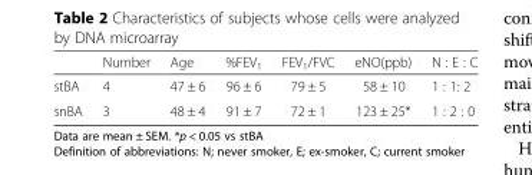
<table><thead><tr><td></td><td>Number</td><td>Age</td><td>%FEV<sub>1</sub></td><td>FEV<sub>1</sub>/FVC</td><td>eNO(ppb)</td><td>N : E : C</td></tr></thead><tbody><tr><td>stBA</td><td>4</td><td>47 ± 6</td><td>96 ± 6</td><td>79 ± 5</td><td>58 ± 10</td><td>1 : 1: 2</td></tr><tr><td>snBA</td><td>3</td><td>48 ± 4</td><td>91 ± 7</td><td>72 ± 1</td><td>123 ± 25*</td><td>1 : 2 : 0</td></tr></tbody></table>